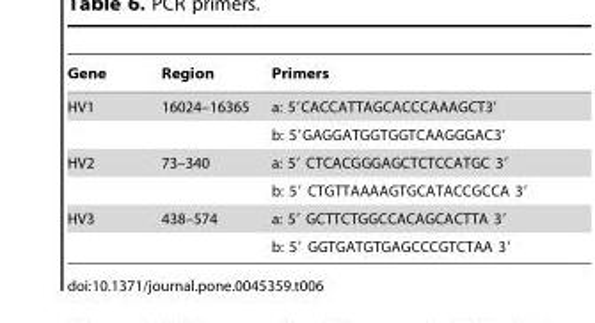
<table><thead><tr><td>Gene</td><td>Region</td><td>Primers</td></tr></thead><tbody><tr><td rowspan="2">HV1</td><td>16024–16365</td><td>a: 5′CACCATTAGCACCCAAAGCT3’</td></tr><tr><td></td><td>b: 5′GAGGATGGTGGTCAAGGGAC3’</td></tr><tr><td rowspan="2">HV2</td><td>73–340</td><td>a: 5′ CTCACGGGAGCTCTCCATGC 3′</td></tr><tr><td></td><td>b: 5′ CTGTTAAAAGTGCATACCGCCA 3′</td></tr><tr><td rowspan="2">HV3</td><td>438–574</td><td>a: 5′ GCTTCTGGCCACAGCACTTA 3′</td></tr><tr><td></td><td>b: 5′ GGTGATGTGAGCCCGTCTAA 3′</td></tr></tbody></table>